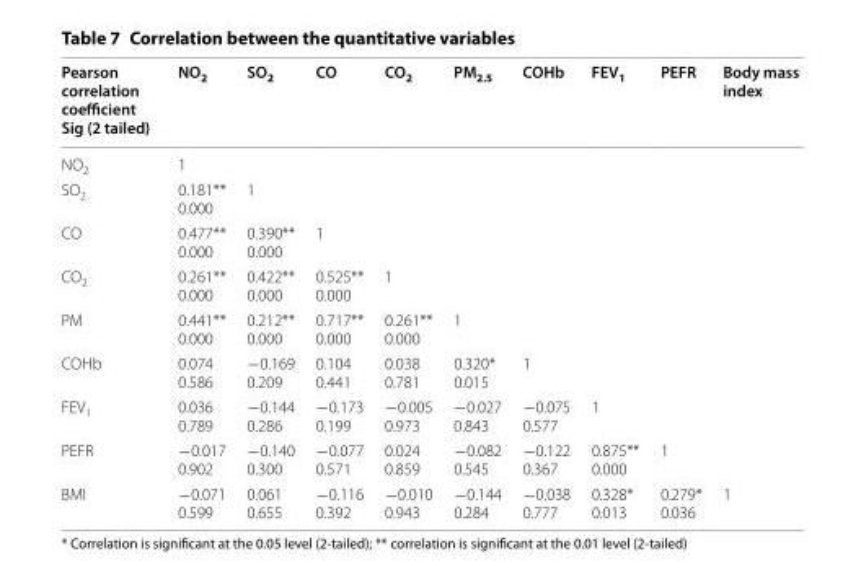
<table><thead><tr><td>Pearson correlation coefficient Sig (2 tailed)</td><td>NO<sub>2</sub></td><td>SO<sub>2</sub></td><td>CO</td><td>CO<sub>2</sub></td><td>PM<sub>2.5</sub></td><td>COHb</td><td>FEV<sub>1</sub></td><td>PEFR</td><td>Body mass index</td></tr></thead><tbody><tr><td>NO<sub>2</sub></td><td>1</td><td></td><td></td><td></td><td></td><td></td><td></td><td></td><td></td></tr><tr><td>SO<sub>2</sub></td><td>0.181** 0.000</td><td>1</td><td></td><td></td><td></td><td></td><td></td><td></td><td></td></tr><tr><td>CO</td><td>0.477** 0.000</td><td>0.390** 0.000</td><td>1</td><td></td><td></td><td></td><td></td><td></td><td></td></tr><tr><td>CO<sub>2</sub></td><td>0.261** 0.000</td><td>0.422** 0.000</td><td>0.525** 0.000</td><td>1</td><td></td><td></td><td></td><td></td><td></td></tr><tr><td>PM</td><td>0.441** 0.000</td><td>0.212** 0.000</td><td>0.717** 0.000</td><td>0.261** 0.000</td><td>1</td><td></td><td></td><td></td><td></td></tr><tr><td>COHb</td><td>0.074 0.586</td><td>−0.169 0.209</td><td>0.104 0.441</td><td>0.038 0.781</td><td>0.320* 0.015</td><td>1</td><td></td><td></td><td></td></tr><tr><td>FEV<sub>1</sub></td><td>0.036 0.789</td><td>−0.144 0.286</td><td>−0.173 0.199</td><td>−0.005 0.973</td><td>−0.027 0.843</td><td>−0.075 0.577</td><td>1</td><td></td><td></td></tr><tr><td>PEFR</td><td>−0.017 0.902</td><td>−0.140 0.300</td><td>−0.077 0.571</td><td>0.024 0.859</td><td>−0.082 0.545</td><td>−0.122 0.367</td><td>0.875** 0.000</td><td>1</td><td></td></tr><tr><td>BMI</td><td>−0.071 0.599</td><td>0.061 0.655</td><td>−0.116 0.392</td><td>−0.010 0.943</td><td>−0.144 0.284</td><td>−0.038 0.777</td><td>0.328* 0.013</td><td>0.279* 0.036</td><td>1</td></tr></tbody></table>